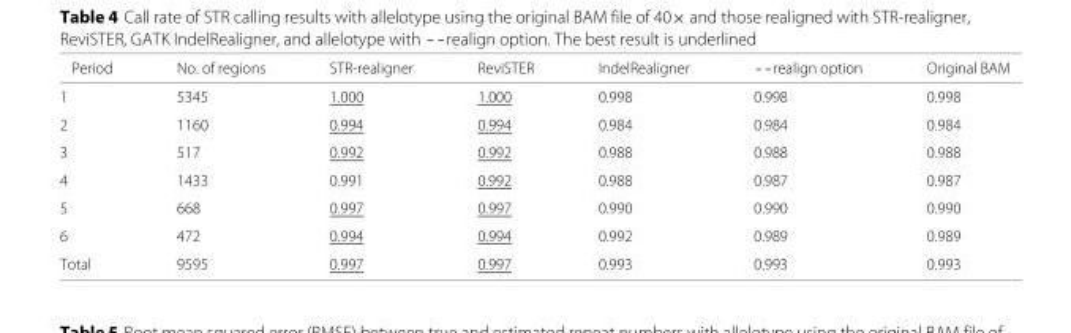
<table><thead><tr><td>Period</td><td>No. of regions</td><td>STR-realigner</td><td>ReviSTER</td><td>IndelRealigner</td><td>--realign option</td><td>Original BAM</td></tr></thead><tbody><tr><td>1</td><td>5345</td><td>1.000</td><td>1.000</td><td>0.998</td><td>0.998</td><td>0.998</td></tr><tr><td>2</td><td>1160</td><td>0.994</td><td>0.994</td><td>0.984</td><td>0.984</td><td>0.984</td></tr><tr><td>3</td><td>517</td><td>0.992</td><td>0.992</td><td>0.988</td><td>0.988</td><td>0.988</td></tr><tr><td>4</td><td>1433</td><td>0.991</td><td>0.992</td><td>0.988</td><td>0.987</td><td>0.987</td></tr><tr><td>5</td><td>668</td><td>0.997</td><td>0.997</td><td>0.990</td><td>0.990</td><td>0.990</td></tr><tr><td>6</td><td>472</td><td>0.994</td><td>0.994</td><td>0.992</td><td>0.989</td><td>0.989</td></tr><tr><td>Total</td><td>9595</td><td>0.997</td><td>0.997</td><td>0.993</td><td>0.993</td><td>0.993</td></tr></tbody></table>